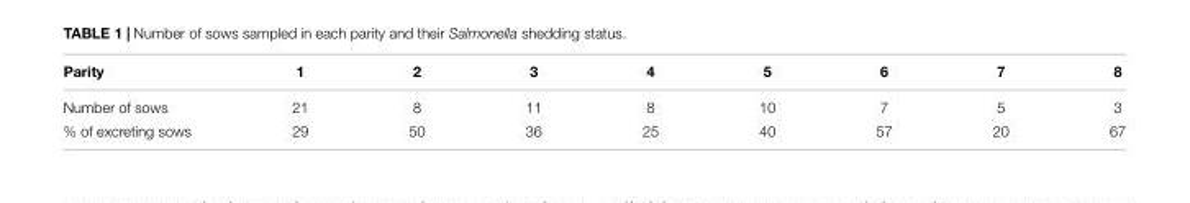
<table><thead><tr><td>Parity</td><td>1</td><td>2</td><td>3</td><td>4</td><td>5</td><td>6</td><td>7</td><td>8</td></tr></thead><tbody><tr><td>Number of sows</td><td>21</td><td>8</td><td>11</td><td>8</td><td>10</td><td>7</td><td>5</td><td>3</td></tr><tr><td>% of excreting sows</td><td>29</td><td>50</td><td>36</td><td>25</td><td>40</td><td>57</td><td>20</td><td>67</td></tr></tbody></table>